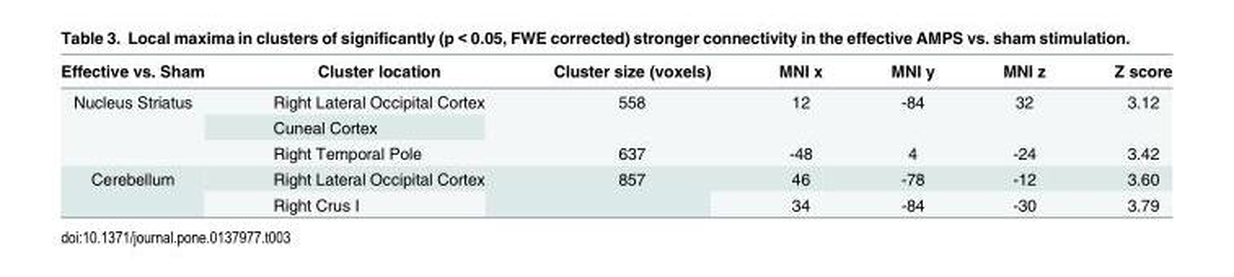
<table><thead><tr><td>Effective vs. Sham</td><td>Cluster location</td><td>Cluster size (voxels)</td><td>MNI x</td><td>MNI y</td><td>MNI z</td><td>Z score</td></tr></thead><tbody><tr><td rowspan="3">Nucleus Striatus</td><td>Right Lateral Occipital Cortex</td><td rowspan="2">558</td><td rowspan="2">12</td><td rowspan="2">-84</td><td rowspan="2">32</td><td rowspan="2">3.12</td></tr><tr><td>Cuneal Cortex</td></tr><tr><td>Right Temporal Pole</td><td>637</td><td>-48</td><td>4</td><td>-24</td><td>3.42</td></tr><tr><td rowspan="2">Cerebellum</td><td>Right Lateral Occipital Cortex</td><td rowspan="2">857</td><td>46</td><td>-78</td><td>-12</td><td>3.60</td></tr><tr><td>Right Crus I</td><td>34</td><td>-84</td><td>-30</td><td>3.79</td></tr></tbody></table>